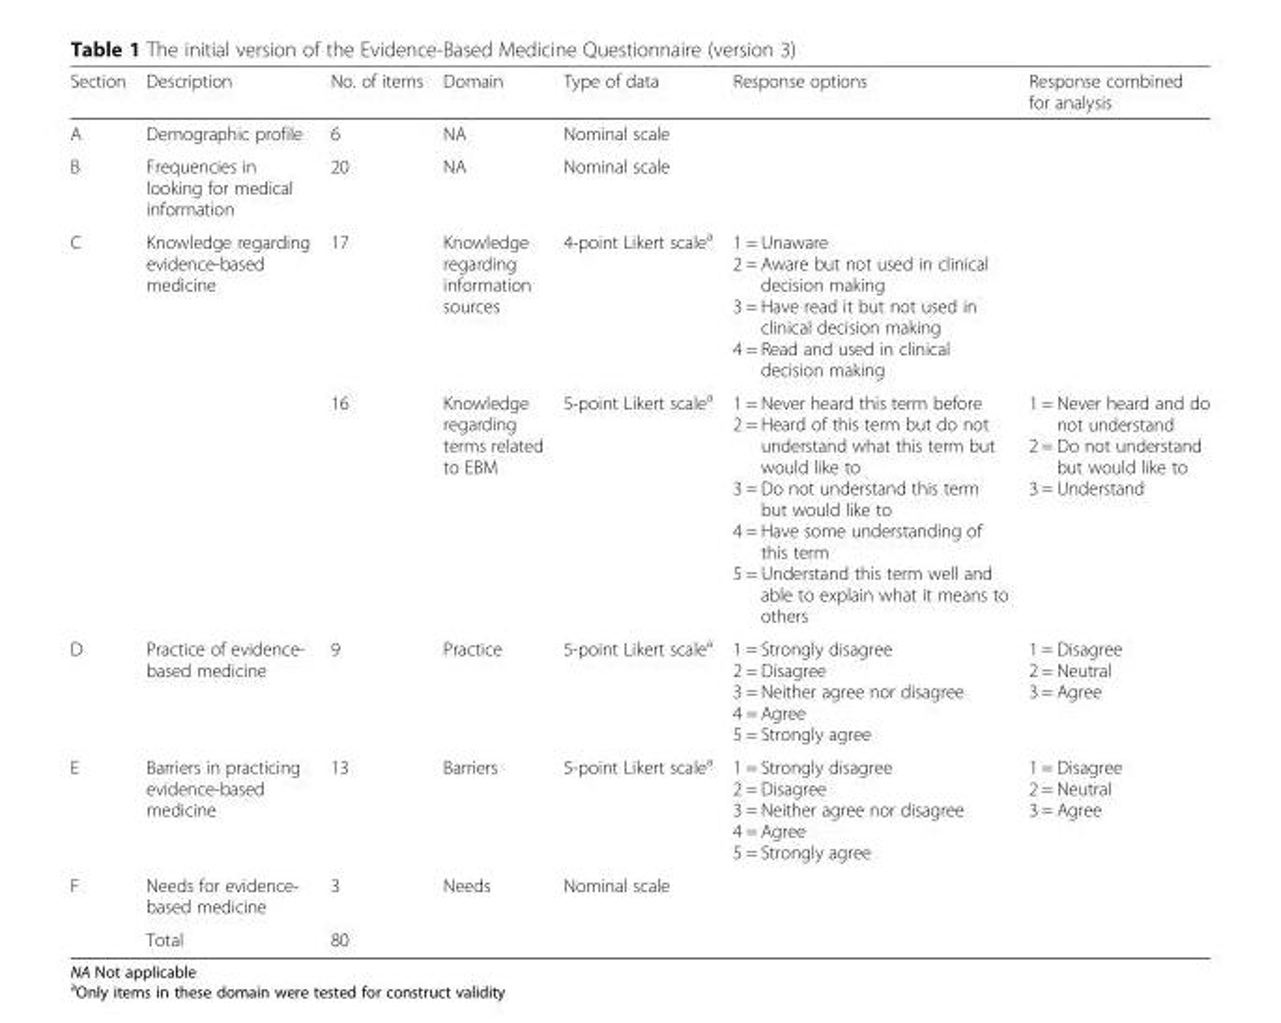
<table><thead><tr><td>Section</td><td>Description</td><td>No. of items</td><td>Domain</td><td>Type of data</td><td>Response options</td><td>Response combined for analysis</td></tr></thead><tbody><tr><td>A</td><td>Demographic profile</td><td>6</td><td>NA</td><td>Nominal scale</td><td></td><td></td></tr><tr><td>B</td><td>Frequencies in looking for medical information</td><td>20</td><td>NA</td><td>Nominal scale</td><td></td><td></td></tr><tr><td rowspan="2">C</td><td rowspan="2">Knowledge regarding evidence-based medicine</td><td>17</td><td>Knowledge regarding information sources</td><td>4-point Likert scale<sup>a</sup></td><td>1 = Unaware 2 = Aware but not used in clinical decision making 3 = Have read it but not used in clinical decision making 4 = Read and used in clinical decision making</td><td></td></tr><tr><td>16</td><td>Knowledge regarding terms related to EBM</td><td>5-point Likert scale<sup>a</sup></td><td>1 = Never heard this term before 2 = Heard of this term but do not understand what this term but would like to 3 = Do not understand this term but would like to 4 = Have some understanding of this term 5 = Understand this term well and able to explain what it means to others</td><td>1 = Never heard and do not understand 2 = Do not understand but would like to 3 = Understand</td></tr><tr><td>D</td><td>Practice of evidence- based medicine</td><td>9</td><td>Practice</td><td>5-point Likert scale<sup>a</sup></td><td>1 = Strongly disagree 2 = Disagree 3 = Neither agree nor disagree 4 = Agree 5 = Strongly agree</td><td>1 = Disagree 2 = Neutral 3 = Agree</td></tr><tr><td>E</td><td>Barriers in practicing evidence-based medicine</td><td>13</td><td>Barriers</td><td>5-point Likert scale<sup>a</sup></td><td>1 = Strongly disagree 2 = Disagree 3 = Neither agree nor disagree 4 = Agree 5 = Strongly agree</td><td>1 = Disagree 2 = Neutral 3 = Agree</td></tr><tr><td rowspan="2">F</td><td>Needs for evidence- based medicine</td><td>3</td><td>Needs</td><td>Nominal scale</td><td></td><td></td></tr><tr><td>Total</td><td>80</td><td></td><td></td><td></td><td></td></tr></tbody></table>